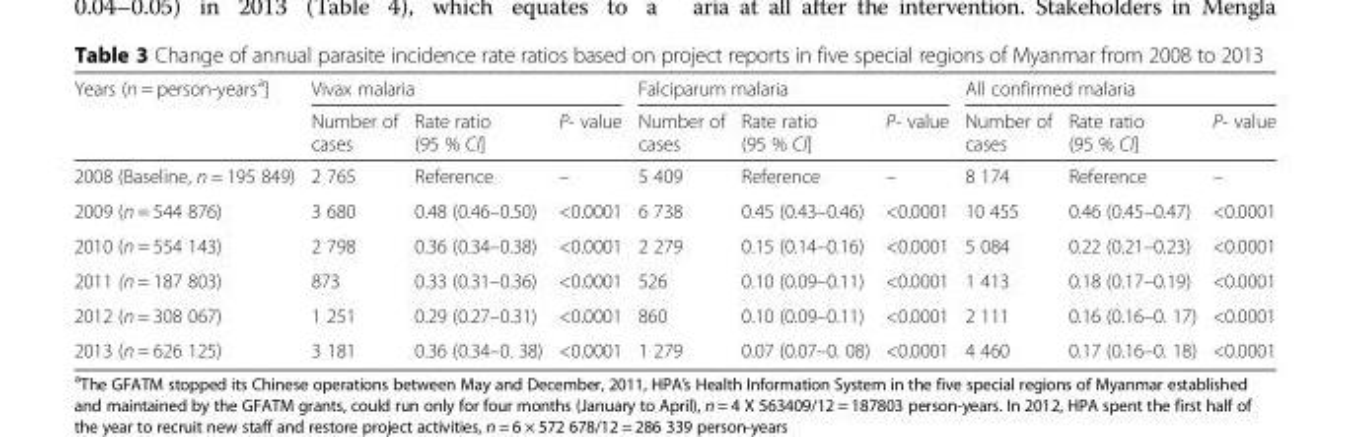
<table><thead><tr><td rowspan="2">Years (n = person-years<sup>a</sup>]</td><td colspan="3">Vivax malaria</td><td colspan="3">Falciparum malaria</td><td colspan="3">All confirmed malaria</td></tr><tr><td>Number of cases</td><td>Rate ratio (95 % CI]</td><td>P- value</td><td>Number of cases</td><td>Rate ratio (95 % CI]</td><td>P- value</td><td>Number of cases</td><td>Rate ratio (95 % CI]</td><td>P- value</td></tr></thead><tbody><tr><td>2008 (Baseline, n = 195 849)</td><td>2 765</td><td>Reference</td><td>–</td><td>5 409</td><td>Reference</td><td>–</td><td>8 174</td><td>Reference</td><td>–</td></tr><tr><td>2009 (n = 544 876)</td><td>3 680</td><td>0.48 (0.46–0.50)</td><td>&lt;0.0001</td><td>6 738</td><td>0.45 (0.43–0.46)</td><td>&lt;0.0001</td><td>10 455</td><td>0.46 (0.45–0.47)</td><td>&lt;0.0001</td></tr><tr><td>2010 (n = 554 143)</td><td>2 798</td><td>0.36 (0.34–0.38)</td><td>&lt;0.0001</td><td>2 279</td><td>0.15 (0.14–0.16)</td><td>&lt;0.0001</td><td>5 084</td><td>0.22 (0.21–0.23)</td><td>&lt;0.0001</td></tr><tr><td>2011 (n = 187 803)</td><td>873</td><td>0.33 (0.31–0.36)</td><td>&lt;0.0001</td><td>526</td><td>0.10 (0.09–0.11)</td><td>&lt;0.0001</td><td>1 413</td><td>0.18 (0.17–0.19)</td><td>&lt;0.0001</td></tr><tr><td>2012 (n = 308 067)</td><td>1 251</td><td>0.29 (0.27–0.31)</td><td>&lt;0.0001</td><td>860</td><td>0.10 (0.09–0.11)</td><td>&lt;0.0001</td><td>2 111</td><td>0.16 (0.16–0. 17)</td><td>&lt;0.0001</td></tr><tr><td>2013 (n = 626 125)</td><td>3 181</td><td>0.36 (0.34–0. 38)</td><td>&lt;0.0001</td><td>1 279</td><td>0.07 (0.07–0. 08)</td><td>&lt;0.0001</td><td>4 460</td><td>0.17 (0.16–0. 18)</td><td>&lt;0.0001</td></tr></tbody></table>